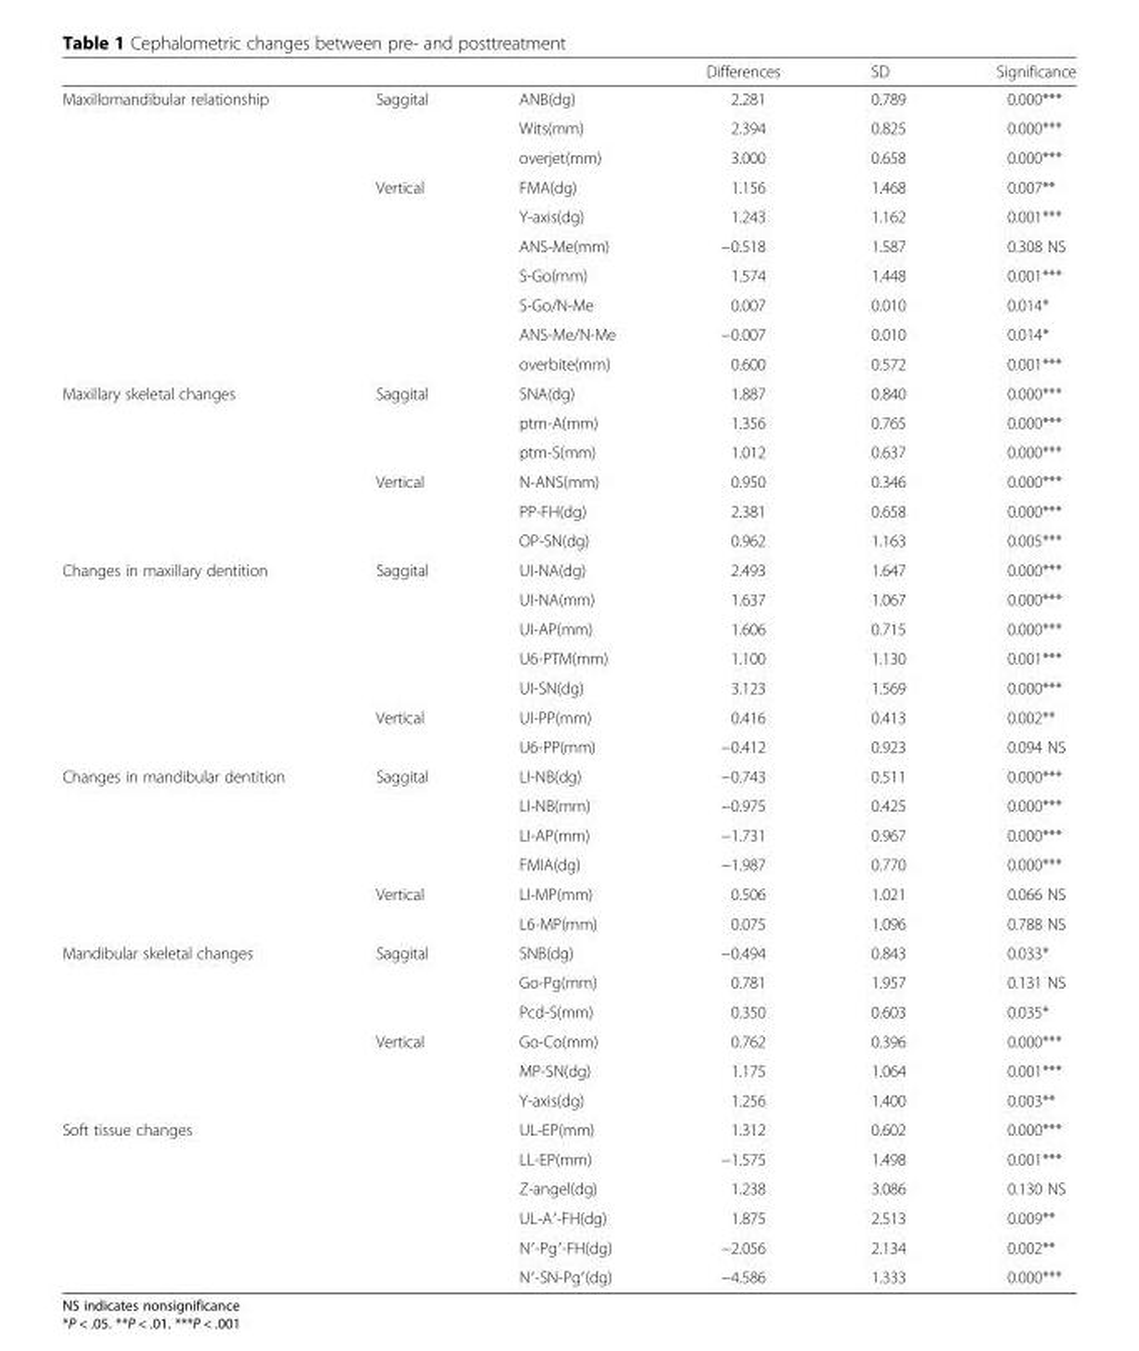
<table><thead><tr><td></td><td></td><td></td><td>Differences</td><td>SD</td><td>Significance</td></tr></thead><tbody><tr><td rowspan="10">Maxillomandibular relationship</td><td>Saggital</td><td>ANB(dg)</td><td>2.281</td><td>0.789</td><td>0.000***</td></tr><tr><td></td><td>Wits(mm)</td><td>2.394</td><td>0.825</td><td>0.000***</td></tr><tr><td></td><td>overjet(mm)</td><td>3.000</td><td>0.658</td><td>0.000***</td></tr><tr><td>Vertical</td><td>FMA(dg)</td><td>1.156</td><td>1.468</td><td>0.007**</td></tr><tr><td></td><td>Y-axis(dg)</td><td>1.243</td><td>1.162</td><td>0.001***</td></tr><tr><td></td><td>ANS-Me(mm)</td><td>−0.518</td><td>1.587</td><td>0.308 NS</td></tr><tr><td></td><td>S-Go(mm)</td><td>1.574</td><td>1.448</td><td>0.001***</td></tr><tr><td></td><td>S-Go/N-Me</td><td>0.007</td><td>0.010</td><td>0.014*</td></tr><tr><td></td><td>ANS-Me/N-Me</td><td>−0.007</td><td>0.010</td><td>0.014*</td></tr><tr><td></td><td>overbite(mm)</td><td>0.600</td><td>0.572</td><td>0.001***</td></tr><tr><td rowspan="6">Maxillary skeletal changes</td><td>Saggital</td><td>SNA(dg)</td><td>1.887</td><td>0.840</td><td>0.000***</td></tr><tr><td></td><td>ptm-A(mm)</td><td>1.356</td><td>0.765</td><td>0.000***</td></tr><tr><td></td><td>ptm-S(mm)</td><td>1.012</td><td>0.637</td><td>0.000***</td></tr><tr><td>Vertical</td><td>N-ANS(mm)</td><td>0.950</td><td>0.346</td><td>0.000***</td></tr><tr><td></td><td>PP-FH(dg)</td><td>2.381</td><td>0.658</td><td>0.000***</td></tr><tr><td></td><td>OP-SN(dg)</td><td>0.962</td><td>1.163</td><td>0.005***</td></tr><tr><td rowspan="7">Changes in maxillary dentition</td><td>Saggital</td><td>UI-NA(dg)</td><td>2.493</td><td>1.647</td><td>0.000***</td></tr><tr><td></td><td>UI-NA(mm)</td><td>1.637</td><td>1.067</td><td>0.000***</td></tr><tr><td></td><td>UI-AP(mm)</td><td>1.606</td><td>0.715</td><td>0.000***</td></tr><tr><td></td><td>U6-PTM(mm)</td><td>1.100</td><td>1.130</td><td>0.001***</td></tr><tr><td></td><td>UI-SN(dg)</td><td>3.123</td><td>1.569</td><td>0.000***</td></tr><tr><td>Vertical</td><td>UI-PP(mm)</td><td>0.416</td><td>0.413</td><td>0.002**</td></tr><tr><td></td><td>U6-PP(mm)</td><td>−0.412</td><td>0.923</td><td>0.094 NS</td></tr><tr><td rowspan="6">Changes in mandibular dentition</td><td>Saggital</td><td>LI-NB(dg)</td><td>−0.743</td><td>0.511</td><td>0.000***</td></tr><tr><td></td><td>LI-NB(mm)</td><td>−0.975</td><td>0.425</td><td>0.000***</td></tr><tr><td></td><td>LI-AP(mm)</td><td>−1.731</td><td>0.967</td><td>0.000***</td></tr><tr><td></td><td>FMIA(dg)</td><td>−1.987</td><td>0.770</td><td>0.000***</td></tr><tr><td>Vertical</td><td>LI-MP(mm)</td><td>0.506</td><td>1.021</td><td>0.066 NS</td></tr><tr><td></td><td>L6-MP(mm)</td><td>0.075</td><td>1.096</td><td>0.788 NS</td></tr><tr><td rowspan="6">Mandibular skeletal changes</td><td>Saggital</td><td>SNB(dg)</td><td>−0.494</td><td>0.843</td><td>0.033*</td></tr><tr><td></td><td>Go-Pg(mm)</td><td>0.781</td><td>1.957</td><td>0.131 NS</td></tr><tr><td></td><td>Pcd-S(mm)</td><td>0.350</td><td>0.603</td><td>0.035*</td></tr><tr><td>Vertical</td><td>Go-Co(mm)</td><td>0.762</td><td>0.396</td><td>0.000***</td></tr><tr><td></td><td>MP-SN(dg)</td><td>1.175</td><td>1.064</td><td>0.001***</td></tr><tr><td></td><td>Y-axis(dg)</td><td>1.256</td><td>1.400</td><td>0.003**</td></tr><tr><td rowspan="6">Soft tissue changes</td><td></td><td>UL-EP(mm)</td><td>1.312</td><td>0.602</td><td>0.000***</td></tr><tr><td></td><td>LL-EP(mm)</td><td>−1.575</td><td>1.498</td><td>0.001***</td></tr><tr><td></td><td>Z-angel(dg)</td><td>1.238</td><td>3.086</td><td>0.130 NS</td></tr><tr><td></td><td>UL-A′-FH(dg)</td><td>1.875</td><td>2.513</td><td>0.009**</td></tr><tr><td></td><td>N′-Pg′-FH(dg)</td><td>−2.056</td><td>2.134</td><td>0.002**</td></tr><tr><td></td><td>N′-SN-Pg′(dg)</td><td>−4.586</td><td>1.333</td><td>0.000***</td></tr></tbody></table>